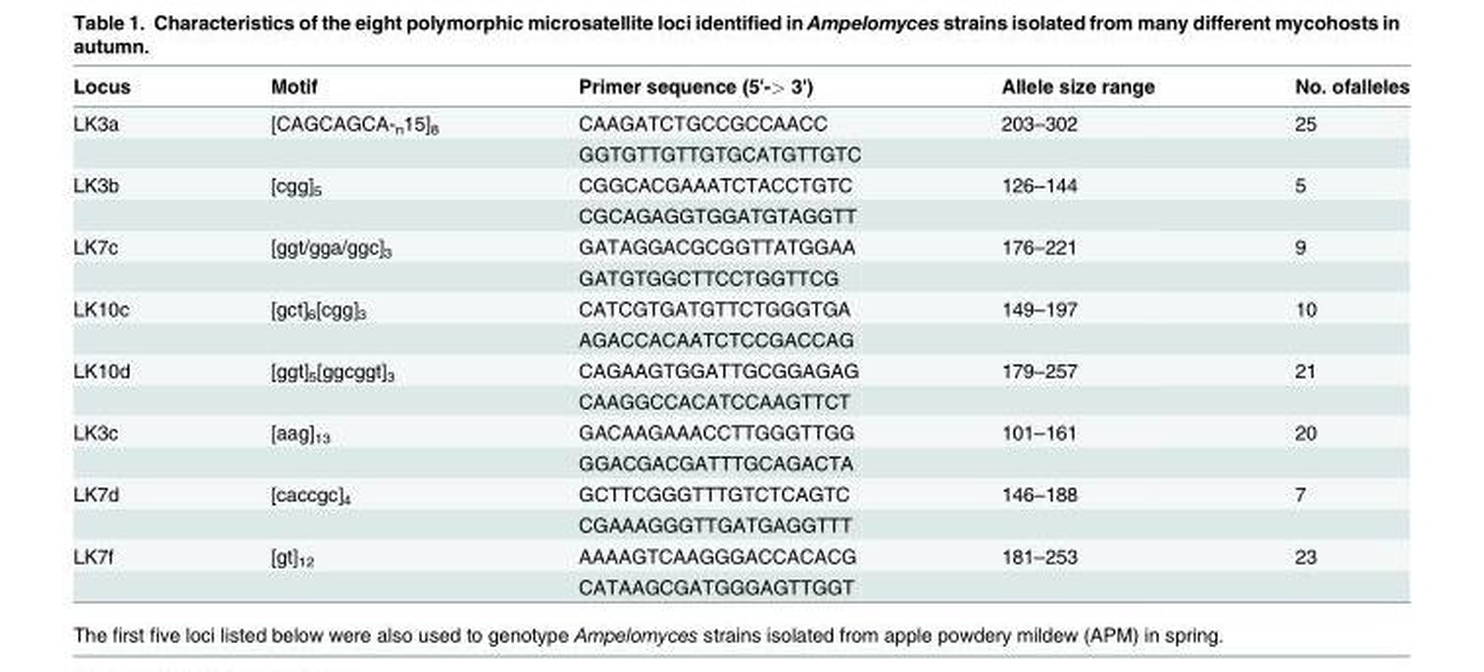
<table><thead><tr><td>Locus</td><td>Motif</td><td>Primer sequence (5&#x27;-&gt; 3&#x27;)</td><td>Allele size range</td><td>No. ofalleles</td></tr></thead><tbody><tr><td rowspan="2">LK3a</td><td>[CAGCAGCA-<sub>n</sub>15]<sub>8</sub></td><td>CAAGATCTGCCGCCAACC</td><td>203–302</td><td>25</td></tr><tr><td></td><td>GGTGTTGTTGTGCATGTTGTC</td><td></td><td></td></tr><tr><td rowspan="2">LK3b</td><td>[cgg]<sub>5</sub></td><td>CGGCACGAAATCTACCTGTC</td><td>126–144</td><td>5</td></tr><tr><td></td><td>CGCAGAGGTGGATGTAGGTT</td><td></td><td></td></tr><tr><td rowspan="2">LK7c</td><td>[ggt/gga/ggc]<sub>3</sub></td><td>GATAGGACGCGGTTATGGAA</td><td>176–221</td><td>9</td></tr><tr><td></td><td>GATGTGGCTTCCTGGTTCG</td><td></td><td></td></tr><tr><td rowspan="2">LK10c</td><td>[gct]<sub>6</sub>[cgg]<sub>3</sub></td><td>CATCGTGATGTTCTGGGTGA</td><td>149–197</td><td>10</td></tr><tr><td></td><td>AGACCACAATCTCCGACCAG</td><td></td><td></td></tr><tr><td rowspan="2">LK10d</td><td>[ggt]<sub>5</sub>[ggcggt]<sub>3</sub></td><td>CAGAAGTGGATTGCGGAGAG</td><td>179–257</td><td>21</td></tr><tr><td></td><td>CAAGGCCACATCCAAGTTCT</td><td></td><td></td></tr><tr><td rowspan="2">LK3c</td><td>[aag]<sub>13</sub></td><td>GACAAGAAACCTTGGGTTGG</td><td>101–161</td><td>20</td></tr><tr><td></td><td>GGACGACGATTTGCAGACTA</td><td></td><td></td></tr><tr><td rowspan="2">LK7d</td><td>[caccgc]<sub>4</sub></td><td>GCTTCGGGTTTGTCTCAGTC</td><td>146–188</td><td>7</td></tr><tr><td></td><td>CGAAAGGGTTGATGAGGTTT</td><td></td><td></td></tr><tr><td rowspan="2">LK7f</td><td>[gt]<sub>12</sub></td><td>AAAAGTCAAGGGACCACACG</td><td>181–253</td><td>23</td></tr><tr><td></td><td>CATAAGCGATGGGAGTTGGT</td><td></td><td></td></tr></tbody></table>